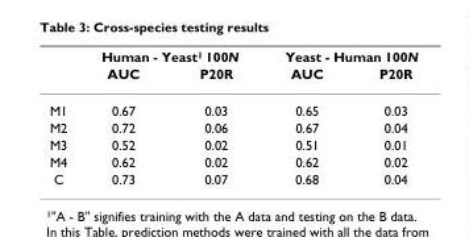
<table><thead><tr><td rowspan="2"></td><td colspan="2">Human - Yeast<sup>1</sup> 100N</td><td colspan="2">Yeast - Human 100N</td></tr><tr><td>AUC</td><td>P20R</td><td>AUC</td><td>P20R</td></tr></thead><tbody><tr><td>M1</td><td>0.67</td><td>0.03</td><td>0.65</td><td>0.03</td></tr><tr><td>M2</td><td>0.72</td><td>0.06</td><td>0.67</td><td>0.04</td></tr><tr><td>M3</td><td>0.52</td><td>0.02</td><td>0.51</td><td>0.01</td></tr><tr><td>M4</td><td>0.62</td><td>0.02</td><td>0.62</td><td>0.02</td></tr><tr><td>C</td><td>0.73</td><td>0.07</td><td>0.68</td><td>0.04</td></tr></tbody></table>